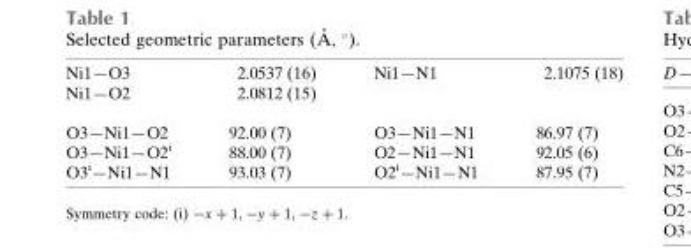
<table><tbody><tr><td>Ni1—O3</td><td>2.0537 (16)</td><td>Ni1—N1</td><td>2.1075 (18)</td></tr><tr><td>Ni1—O2</td><td>2.0812 (15)</td><td></td><td></td></tr><tr><td>O3—Ni1—O2</td><td>92.00 (7)</td><td>O3—Ni1—N1</td><td>86.97 (7)</td></tr><tr><td>O3—Ni1—O2<sup>i</sup></td><td>88.00 (7)</td><td>O2—Ni1—N1</td><td>92.05 (6)</td></tr><tr><td>O3<sup>i</sup>—Ni1—N1</td><td>93.03 (7)</td><td>O2<sup>i</sup>—Ni1—N1</td><td>87.95 (7)</td></tr></tbody></table>